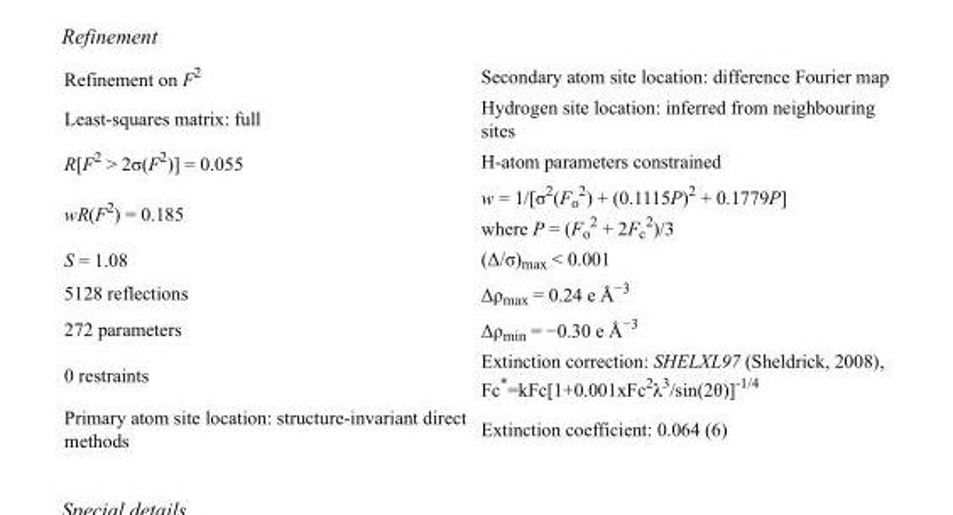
<table><tbody><tr><td>Refinement on F<sup>2</sup></td><td>Secondary atom site location: difference Fourier map</td></tr><tr><td>Least-squares matrix: full</td><td>Hydrogen site location: inferred from neighbouring sites</td></tr><tr><td>R[F<sup>2</sup> &gt; 2σ(F<sup>2</sup>)] = 0.055</td><td>H-atom parameters constrained</td></tr><tr><td>wR(F<sup>2</sup>) = 0.185</td><td>w = 1/[σ<sup>2</sup>(F<sub>o</sub> <sup>2</sup>) + (0.1115P)<sup>2</sup> + 0.1779P] where P = (F<sub>o</sub> <sup>2</sup> + 2F<sub>c</sub> <sup>2</sup>)/3</td></tr><tr><td>S = 1.08</td><td>(Δ/σ)<sub>max</sub> &lt; 0.001</td></tr><tr><td>5128 reflections</td><td>Δρ<sub>max</sub> = 0.24 e Å<sup>−3</sup></td></tr><tr><td>272 parameters</td><td>Δρ<sub>min</sub> = −0.30 e Å<sup>−3</sup></td></tr><tr><td>0 restraints</td><td>Extinction correction: SHELXL97 (Sheldrick, 2008), Fc*=kFc[1+0.001xFc<sup>2</sup>λ<sup>3</sup>/sin(2θ)]<sup>-1/4</sup></td></tr><tr><td>Primary atom site location: structure-invariant direct methods</td><td>Extinction coefficient: 0.064 (6)</td></tr></tbody></table>